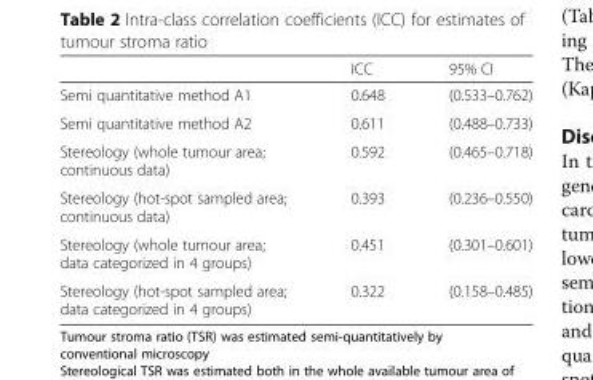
<table><thead><tr><td></td><td>ICC</td><td>95% CI</td></tr></thead><tbody><tr><td>Semi quantitative method A1</td><td>0.648</td><td>(0.533–0.762)</td></tr><tr><td>Semi quantitative method A2</td><td>0.611</td><td>(0.488–0.733)</td></tr><tr><td>Stereology (whole tumour area; continuous data)</td><td>0.592</td><td>(0.465–0.718)</td></tr><tr><td>Stereology (hot-spot sampled area; continuous data)</td><td>0.393</td><td>(0.236–0.550)</td></tr><tr><td>Stereology (whole tumour area; data categorized in 4 groups)</td><td>0.451</td><td>(0.301–0.601)</td></tr><tr><td>Stereology (hot-spot sampled area; data categorized in 4 groups)</td><td>0.322</td><td>(0.158–0.485)</td></tr></tbody></table>